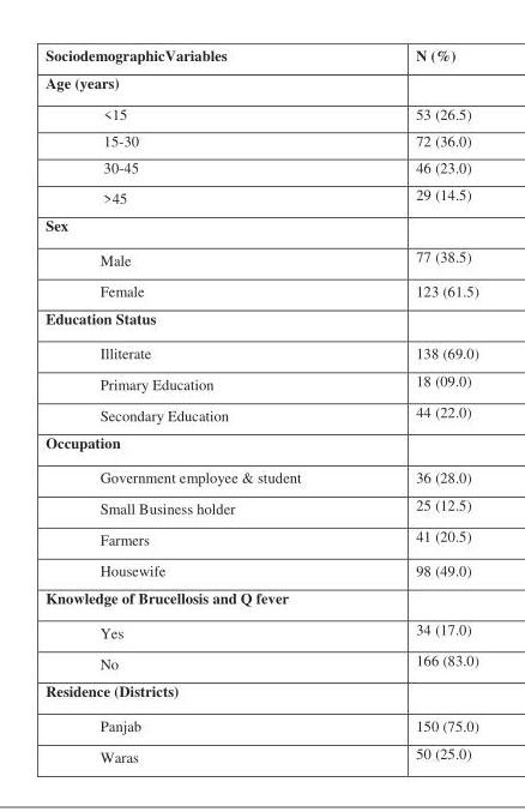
<table><thead><tr><td>SociodemographicVariables</td><td>N (%)</td></tr></thead><tbody><tr><td colspan="2">Age (years)</td></tr><tr><td>&lt;15</td><td>53 (26.5)</td></tr><tr><td>15-30</td><td>72 (36.0)</td></tr><tr><td>30-45</td><td>46 (23.0)</td></tr><tr><td>&gt;45</td><td>29 (14.5)</td></tr><tr><td colspan="2">Sex</td></tr><tr><td>Male</td><td>77 (38.5)</td></tr><tr><td>Female</td><td>123 (61.5)</td></tr><tr><td colspan="2">Education Status</td></tr><tr><td>Illiterate</td><td>138 (69.0)</td></tr><tr><td>Primary Education</td><td>18 (09.0)</td></tr><tr><td>Secondary Education</td><td>44 (22.0)</td></tr><tr><td colspan="2">Occupation</td></tr><tr><td>Government employee &amp; student</td><td>36 (28.0)</td></tr><tr><td>Small Business holder</td><td>25 (12.5)</td></tr><tr><td>Farmers</td><td>41 (20.5)</td></tr><tr><td>Housewife</td><td>98 (49.0)</td></tr><tr><td colspan="2">Knowledge of Brucellosis and Q fever</td></tr><tr><td>Yes</td><td>34 (17.0)</td></tr><tr><td>No</td><td>166 (83.0)</td></tr><tr><td colspan="2">Residence (Districts)</td></tr><tr><td>Panjab</td><td>150 (75.0)</td></tr><tr><td>Waras</td><td>50 (25.0)</td></tr></tbody></table>